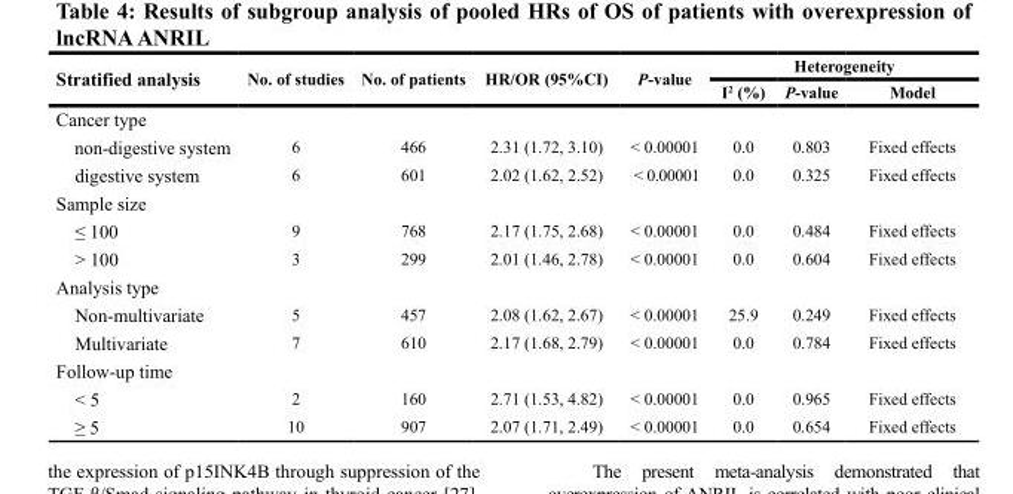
<table><thead><tr><td rowspan="2">Stratified analysis</td><td rowspan="2">No. of studies</td><td rowspan="2">No. of patients</td><td rowspan="2">HR/OR (95%CI)</td><td rowspan="2">P-value</td><td colspan="3">Heterogeneity</td></tr><tr><td>I<sup>2</sup> (%)</td><td>P-value</td><td>Model</td></tr></thead><tbody><tr><td colspan="8">Cancer type</td></tr><tr><td>non-digestive system</td><td>6</td><td>466</td><td>2.31 (1.72, 3.10)</td><td>&lt; 0.00001</td><td>0.0</td><td>0.803</td><td>Fixed effects</td></tr><tr><td>digestive system</td><td>6</td><td>601</td><td>2.02 (1.62, 2.52)</td><td>&lt; 0.00001</td><td>0.0</td><td>0.325</td><td>Fixed effects</td></tr><tr><td colspan="8">Sample size</td></tr><tr><td>≤ 100</td><td>9</td><td>768</td><td>2.17 (1.75, 2.68)</td><td>&lt; 0.00001</td><td>0.0</td><td>0.484</td><td>Fixed effects</td></tr><tr><td>&gt; 100</td><td>3</td><td>299</td><td>2.01 (1.46, 2.78)</td><td>&lt; 0.00001</td><td>0.0</td><td>0.604</td><td>Fixed effects</td></tr><tr><td colspan="8">Analysis type</td></tr><tr><td>Non-multivariate</td><td>5</td><td>457</td><td>2.08 (1.62, 2.67)</td><td>&lt; 0.00001</td><td>25.9</td><td>0.249</td><td>Fixed effects</td></tr><tr><td>Multivariate</td><td>7</td><td>610</td><td>2.17 (1.68, 2.79)</td><td>&lt; 0.00001</td><td>0.0</td><td>0.784</td><td>Fixed effects</td></tr><tr><td colspan="8">Follow-up time</td></tr><tr><td>&lt; 5</td><td>2</td><td>160</td><td>2.71 (1.53, 4.82)</td><td>&lt; 0.00001</td><td>0.0</td><td>0.965</td><td>Fixed effects</td></tr><tr><td>≥ 5</td><td>10</td><td>907</td><td>2.07 (1.71, 2.49)</td><td>&lt; 0.00001</td><td>0.0</td><td>0.654</td><td>Fixed effects</td></tr></tbody></table>